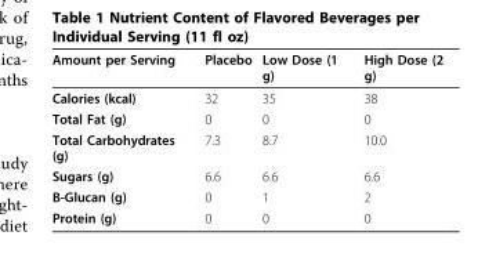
<table><thead><tr><td>Amount per Serving</td><td>Placebo</td><td>Low Dose (1 g)</td><td>High Dose (2 g)</td></tr></thead><tbody><tr><td>Calories (kcal)</td><td>32</td><td>35</td><td>38</td></tr><tr><td>Total Fat (g)</td><td>0</td><td>0</td><td>0</td></tr><tr><td>Total Carbohydrates (g)</td><td>7.3</td><td>8.7</td><td>10.0</td></tr><tr><td>Sugars (g)</td><td>6.6</td><td>6.6</td><td>6.6</td></tr><tr><td>B-Glucan (g)</td><td>0</td><td>1</td><td>2</td></tr><tr><td>Protein (g)</td><td>0</td><td>0</td><td>0</td></tr></tbody></table>